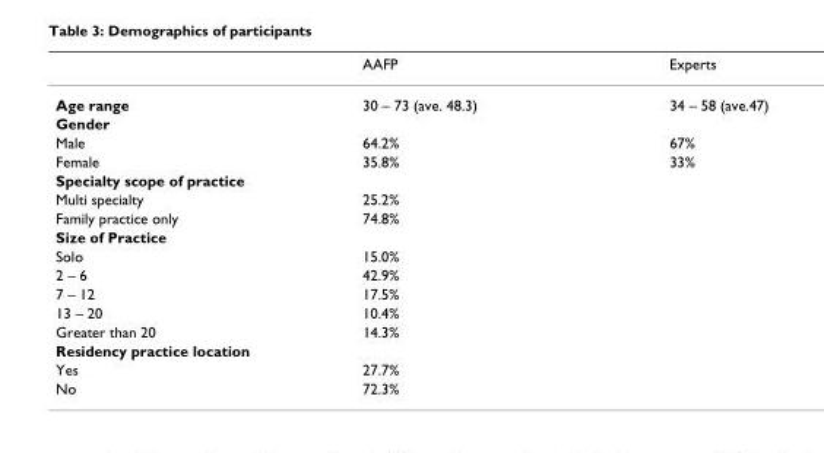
<table><thead><tr><td></td><td>AAFP</td><td>Experts</td></tr></thead><tbody><tr><td>Age range</td><td>30 – 73 (ave. 48.3)</td><td>34 – 58 (ave.47)</td></tr><tr><td colspan="3">Gender</td></tr><tr><td>Male</td><td>64.2%</td><td>67%</td></tr><tr><td>Female</td><td>35.8%</td><td>33%</td></tr><tr><td colspan="3">Specialty scope of practice</td></tr><tr><td>Multi specialty</td><td>25.2%</td><td></td></tr><tr><td>Family practice only</td><td>74.8%</td><td></td></tr><tr><td colspan="3">Size of Practice</td></tr><tr><td>Solo</td><td>15.0%</td><td></td></tr><tr><td>2 – 6</td><td>42.9%</td><td></td></tr><tr><td>7 – 12</td><td>17.5%</td><td></td></tr><tr><td>13 – 20</td><td>10.4%</td><td></td></tr><tr><td>Greater than 20</td><td>14.3%</td><td></td></tr><tr><td colspan="3">Residency practice location</td></tr><tr><td>Yes</td><td>27.7%</td><td></td></tr><tr><td>No</td><td>72.3%</td><td></td></tr></tbody></table>